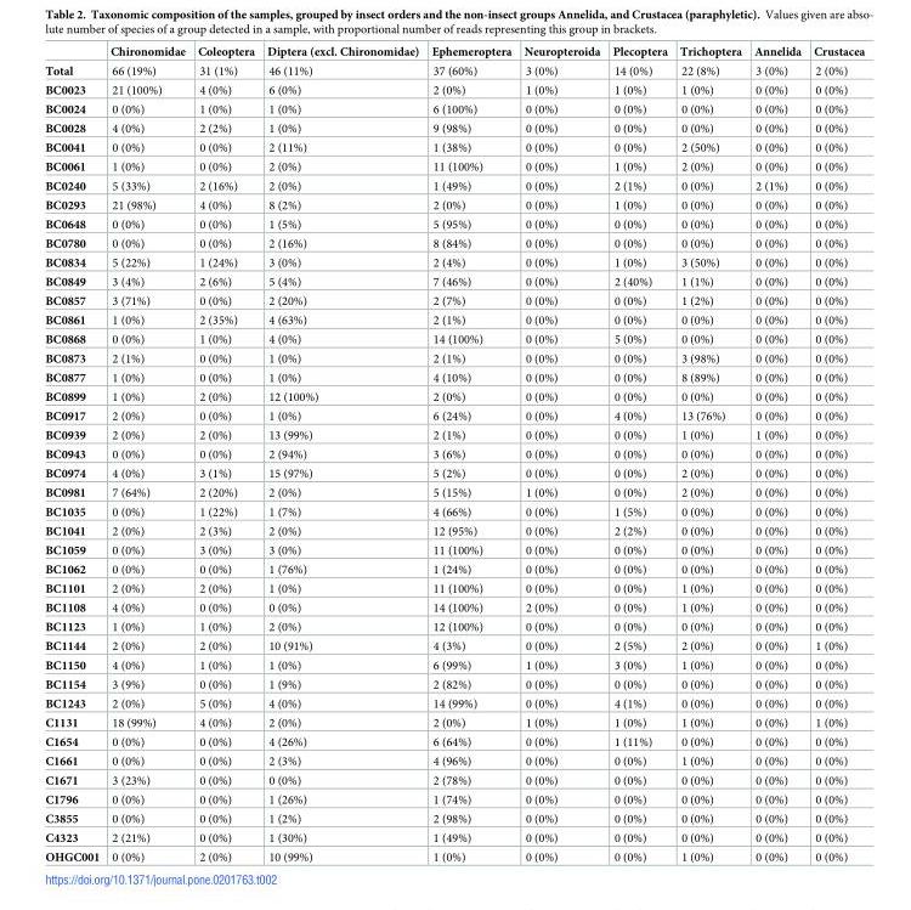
<table><thead><tr><td></td><td>Chironomidae</td><td>Coleoptera</td><td>Diptera (excl. Chironomidae)</td><td>Ephemeroptera</td><td>Neuropteroida</td><td>Plecoptera</td><td>Trichoptera</td><td>Annelida</td><td>Crustacea</td></tr></thead><tbody><tr><td>Total</td><td>66 (19%)</td><td>31 (1%)</td><td>46 (11%)</td><td>37 (60%)</td><td>3 (0%)</td><td>14 (0%)</td><td>22 (8%)</td><td>3 (0%)</td><td>2 (0%)</td></tr><tr><td>BC0023</td><td>21 (100%)</td><td>4 (0%)</td><td>6 (0%)</td><td>2 (0%)</td><td>1 (0%)</td><td>1 (0%)</td><td>1 (0%)</td><td>0 (0%)</td><td>0 (0%)</td></tr><tr><td>BC0024</td><td>0 (0%)</td><td>1 (0%)</td><td>1 (0%)</td><td>6 (100%)</td><td>0 (0%)</td><td>0 (0%)</td><td>0 (0%)</td><td>0 (0%)</td><td>0 (0%)</td></tr><tr><td>BC0028</td><td>4 (0%)</td><td>2 (2%)</td><td>1 (0%)</td><td>9 (98%)</td><td>0 (0%)</td><td>0 (0%)</td><td>0 (0%)</td><td>0 (0%)</td><td>0 (0%)</td></tr><tr><td>BC0041</td><td>0 (0%)</td><td>0 (0%)</td><td>2 (11%)</td><td>1 (38%)</td><td>0 (0%)</td><td>0 (0%)</td><td>2 (50%)</td><td>0 (0%)</td><td>0 (0%)</td></tr><tr><td>BC0061</td><td>1 (0%)</td><td>0 (0%)</td><td>2 (0%)</td><td>11 (100%)</td><td>0 (0%)</td><td>1 (0%)</td><td>2 (0%)</td><td>0 (0%)</td><td>0 (0%)</td></tr><tr><td>BC0240</td><td>5 (33%)</td><td>2 (16%)</td><td>2 (0%)</td><td>1 (49%)</td><td>0 (0%)</td><td>2 (1%)</td><td>0 (0%)</td><td>2 (1%)</td><td>0 (0%)</td></tr><tr><td>BC0293</td><td>21 (98%)</td><td>4 (0%)</td><td>8 (2%)</td><td>2 (0%)</td><td>0 (0%)</td><td>1 (0%)</td><td>0 (0%)</td><td>0 (0%)</td><td>0 (0%)</td></tr><tr><td>BC0648</td><td>0 (0%)</td><td>0 (0%)</td><td>1 (5%)</td><td>5 (95%)</td><td>0 (0%)</td><td>0 (0%)</td><td>0 (0%)</td><td>0 (0%)</td><td>0 (0%)</td></tr><tr><td>BC0780</td><td>0 (0%)</td><td>0 (0%)</td><td>2 (16%)</td><td>8 (84%)</td><td>0 (0%)</td><td>0 (0%)</td><td>0 (0%)</td><td>0 (0%)</td><td>0 (0%)</td></tr><tr><td>BC0834</td><td>5 (22%)</td><td>1 (24%)</td><td>3 (0%)</td><td>2 (4%)</td><td>0 (0%)</td><td>1 (0%)</td><td>3 (50%)</td><td>0 (0%)</td><td>0 (0%)</td></tr><tr><td>BC0849</td><td>3 (4%)</td><td>2 (6%)</td><td>5 (4%)</td><td>7 (46%)</td><td>0 (0%)</td><td>2 (40%)</td><td>1 (1%)</td><td>0 (0%)</td><td>0 (0%)</td></tr><tr><td>BC0857</td><td>3 (71%)</td><td>0 (0%)</td><td>2 (20%)</td><td>2 (7%)</td><td>0 (0%)</td><td>0 (0%)</td><td>1 (2%)</td><td>0 (0%)</td><td>0 (0%)</td></tr><tr><td>BC0861</td><td>1 (0%)</td><td>2 (35%)</td><td>4 (63%)</td><td>2 (1%)</td><td>0 (0%)</td><td>0 (0%)</td><td>0 (0%)</td><td>0 (0%)</td><td>0 (0%)</td></tr><tr><td>BC0868</td><td>0 (0%)</td><td>1 (0%)</td><td>4 (0%)</td><td>14 (100%)</td><td>0 (0%)</td><td>5 (0%)</td><td>0 (0%)</td><td>0 (0%)</td><td>0 (0%)</td></tr><tr><td>BC0873</td><td>2 (1%)</td><td>0 (0%)</td><td>1 (0%)</td><td>2 (1%)</td><td>0 (0%)</td><td>0 (0%)</td><td>3 (98%)</td><td>0 (0%)</td><td>0 (0%)</td></tr><tr><td>BC0877</td><td>1 (0%)</td><td>0 (0%)</td><td>1 (0%)</td><td>4 (10%)</td><td>0 (0%)</td><td>0 (0%)</td><td>8 (89%)</td><td>0 (0%)</td><td>0 (0%)</td></tr><tr><td>BC0899</td><td>1 (0%)</td><td>2 (0%)</td><td>12 (100%)</td><td>2 (0%)</td><td>0 (0%)</td><td>0 (0%)</td><td>0 (0%)</td><td>0 (0%)</td><td>0 (0%)</td></tr><tr><td>BC0917</td><td>2 (0%)</td><td>0 (0%)</td><td>1 (0%)</td><td>6 (24%)</td><td>0 (0%)</td><td>4 (0%)</td><td>13 (76%)</td><td>0 (0%)</td><td>0 (0%)</td></tr><tr><td>BC0939</td><td>2 (0%)</td><td>2 (0%)</td><td>13 (99%)</td><td>2 (1%)</td><td>0 (0%)</td><td>0 (0%)</td><td>1 (0%)</td><td>1 (0%)</td><td>0 (0%)</td></tr><tr><td>BC0943</td><td>0 (0%)</td><td>0 (0%)</td><td>2 (94%)</td><td>3 (6%)</td><td>0 (0%)</td><td>0 (0%)</td><td>0 (0%)</td><td>0 (0%)</td><td>0 (0%)</td></tr><tr><td>BC0974</td><td>4 (0%)</td><td>3 (1%)</td><td>15 (97%)</td><td>5 (2%)</td><td>0 (0%)</td><td>0 (0%)</td><td>2 (0%)</td><td>0 (0%)</td><td>0 (0%)</td></tr><tr><td>BC0981</td><td>7 (64%)</td><td>2 (20%)</td><td>2 (0%)</td><td>5 (15%)</td><td>1 (0%)</td><td>0 (0%)</td><td>2 (0%)</td><td>0 (0%)</td><td>0 (0%)</td></tr><tr><td>BC1035</td><td>0 (0%)</td><td>1 (22%)</td><td>1 (7%)</td><td>4 (66%)</td><td>0 (0%)</td><td>1 (5%)</td><td>0 (0%)</td><td>0 (0%)</td><td>0 (0%)</td></tr><tr><td>BC1041</td><td>2 (0%)</td><td>2 (3%)</td><td>2 (0%)</td><td>12 (95%)</td><td>0 (0%)</td><td>2 (2%)</td><td>0 (0%)</td><td>0 (0%)</td><td>0 (0%)</td></tr><tr><td>BC1059</td><td>0 (0%)</td><td>3 (0%)</td><td>3 (0%)</td><td>11 (100%)</td><td>0 (0%)</td><td>0 (0%)</td><td>0 (0%)</td><td>0 (0%)</td><td>0 (0%)</td></tr><tr><td>BC1062</td><td>0 (0%)</td><td>0 (0%)</td><td>1 (76%)</td><td>1 (24%)</td><td>0 (0%)</td><td>0 (0%)</td><td>0 (0%)</td><td>0 (0%)</td><td>0 (0%)</td></tr><tr><td>BC1101</td><td>2 (0%)</td><td>2 (0%)</td><td>1 (0%)</td><td>11 (100%)</td><td>0 (0%)</td><td>0 (0%)</td><td>1 (0%)</td><td>0 (0%)</td><td>0 (0%)</td></tr><tr><td>BC1108</td><td>4 (0%)</td><td>0 (0%)</td><td>0 (0%)</td><td>14 (100%)</td><td>2 (0%)</td><td>0 (0%)</td><td>1 (0%)</td><td>0 (0%)</td><td>0 (0%)</td></tr><tr><td>BC1123</td><td>1 (0%)</td><td>1 (0%)</td><td>2 (0%)</td><td>12 (100%)</td><td>0 (0%)</td><td>0 (0%)</td><td>0 (0%)</td><td>0 (0%)</td><td>0 (0%)</td></tr><tr><td>BC1144</td><td>2 (0%)</td><td>2 (0%)</td><td>10 (91%)</td><td>4 (3%)</td><td>0 (0%)</td><td>2 (5%)</td><td>2 (0%)</td><td>0 (0%)</td><td>1 (0%)</td></tr><tr><td>BC1150</td><td>4 (0%)</td><td>1 (0%)</td><td>1 (0%)</td><td>6 (99%)</td><td>1 (0%)</td><td>3 (0%)</td><td>1 (0%)</td><td>0 (0%)</td><td>0 (0%)</td></tr><tr><td>BC1154</td><td>3 (9%)</td><td>0 (0%)</td><td>1 (9%)</td><td>2 (82%)</td><td>0 (0%)</td><td>0 (0%)</td><td>0 (0%)</td><td>0 (0%)</td><td>0 (0%)</td></tr><tr><td>BC1243</td><td>2 (0%)</td><td>5 (0%)</td><td>4 (0%)</td><td>14 (99%)</td><td>0 (0%)</td><td>4 (1%)</td><td>0 (0%)</td><td>0 (0%)</td><td>0 (0%)</td></tr><tr><td>C1131</td><td>18 (99%)</td><td>4 (0%)</td><td>2 (0%)</td><td>2 (0%)</td><td>1 (0%)</td><td>1 (0%)</td><td>1 (0%)</td><td>0 (0%)</td><td>1 (0%)</td></tr><tr><td>C1654</td><td>0 (0%)</td><td>0 (0%)</td><td>4 (26%)</td><td>6 (64%)</td><td>0 (0%)</td><td>1 (11%)</td><td>0 (0%)</td><td>0 (0%)</td><td>0 (0%)</td></tr><tr><td>C1661</td><td>0 (0%)</td><td>0 (0%)</td><td>2 (3%)</td><td>4 (96%)</td><td>0 (0%)</td><td>0 (0%)</td><td>1 (0%)</td><td>0 (0%)</td><td>0 (0%)</td></tr><tr><td>C1671</td><td>3 (23%)</td><td>0 (0%)</td><td>0 (0%)</td><td>2 (78%)</td><td>0 (0%)</td><td>0 (0%)</td><td>0 (0%)</td><td>0 (0%)</td><td>0 (0%)</td></tr><tr><td>C1796</td><td>0 (0%)</td><td>0 (0%)</td><td>1 (26%)</td><td>1 (74%)</td><td>0 (0%)</td><td>0 (0%)</td><td>0 (0%)</td><td>0 (0%)</td><td>0 (0%)</td></tr><tr><td>C3855</td><td>0 (0%)</td><td>0 (0%)</td><td>1 (2%)</td><td>2 (98%)</td><td>0 (0%)</td><td>0 (0%)</td><td>0 (0%)</td><td>0 (0%)</td><td>0 (0%)</td></tr><tr><td>C4323</td><td>2 (21%)</td><td>0 (0%)</td><td>1 (30%)</td><td>1 (49%)</td><td>0 (0%)</td><td>0 (0%)</td><td>0 (0%)</td><td>0 (0%)</td><td>0 (0%)</td></tr><tr><td>OHGC001</td><td>0 (0%)</td><td>2 (0%)</td><td>10 (99%)</td><td>1 (0%)</td><td>0 (0%)</td><td>0 (0%)</td><td>1 (0%)</td><td>0 (0%)</td><td>0 (0%)</td></tr></tbody></table>